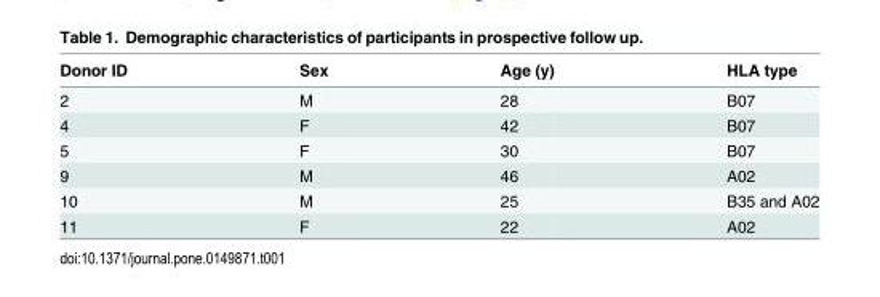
<table><thead><tr><td>Donor ID</td><td>Sex</td><td>Age (y)</td><td>HLA type</td></tr></thead><tbody><tr><td>2</td><td>M</td><td>28</td><td>B07</td></tr><tr><td>4</td><td>F</td><td>42</td><td>B07</td></tr><tr><td>5</td><td>F</td><td>30</td><td>B07</td></tr><tr><td>9</td><td>M</td><td>46</td><td>A02</td></tr><tr><td>10</td><td>M</td><td>25</td><td>B35 and A02</td></tr><tr><td>11</td><td>F</td><td>22</td><td>A02</td></tr></tbody></table>